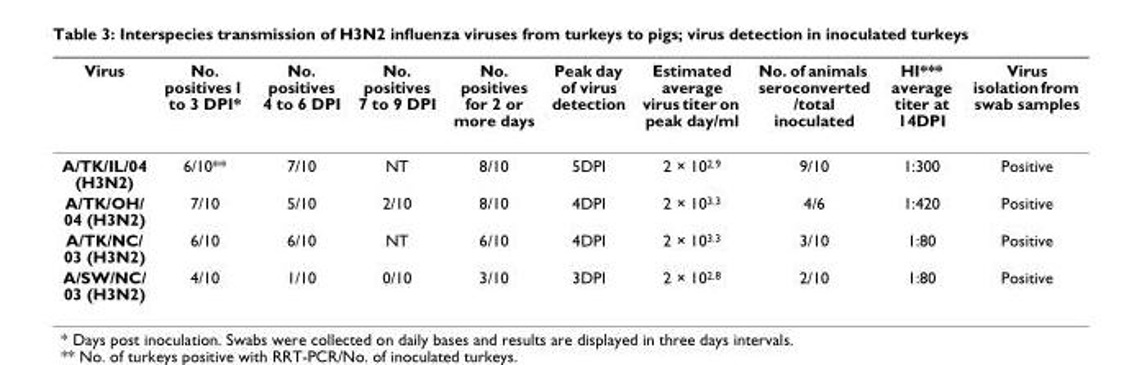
<table><thead><tr><td>Virus</td><td>No. positives 1 to 3 DPI*</td><td>No. positives 4 to 6 DPI</td><td>No. positives 7 to 9 DPI</td><td>No. positives for 2 or more days</td><td>Peak day of virus detection</td><td>Estimated average virus titer on peak day/ml</td><td>No. of animals seroconverted /total inoculated</td><td>HI*** average titer at 14DPI</td><td>Virus isolation from swab samples</td></tr></thead><tbody><tr><td>A/TK/IL/04 (H3N2)</td><td>6/10**</td><td>7/10</td><td>NT</td><td>8/10</td><td>5DPI</td><td>2 × 10<sup>2.9</sup></td><td>9/10</td><td>1:300</td><td>Positive</td></tr><tr><td>A/TK/OH/ 04 (H3N2)</td><td>7/10</td><td>5/10</td><td>2/10</td><td>8/10</td><td>4DPI</td><td>2 × 10<sup>3.3</sup></td><td>4/6</td><td>1:420</td><td>Positive</td></tr><tr><td>A/TK/NC/ 03 (H3N2)</td><td>6/10</td><td>6/10</td><td>NT</td><td>6/10</td><td>4DPI</td><td>2 × 10<sup>3.3</sup></td><td>3/10</td><td>1:80</td><td>Positive</td></tr><tr><td>A/SW/NC/ 03 (H3N2)</td><td>4/10</td><td>1/10</td><td>0/10</td><td>3/10</td><td>3DPI</td><td>2 × 10<sup>2.8</sup></td><td>2/10</td><td>1:80</td><td>Positive</td></tr></tbody></table>